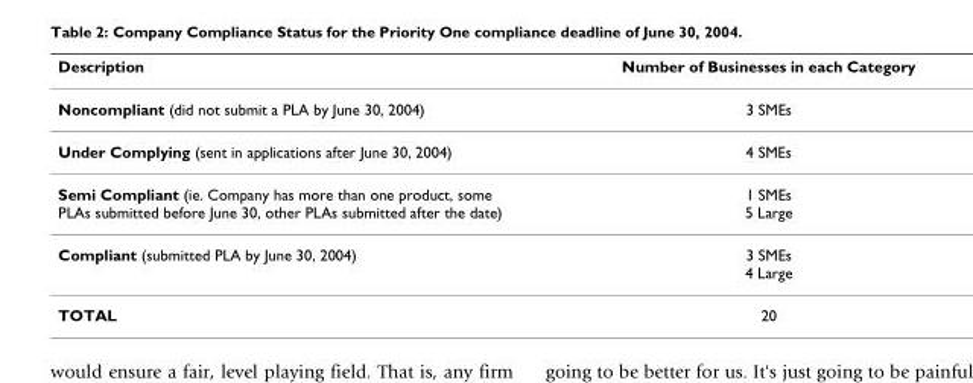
<table><thead><tr><td>Description</td><td>Number of Businesses in each Category</td></tr></thead><tbody><tr><td>Noncompliant (did not submit a PLA by June 30, 2004)</td><td>3 SMEs</td></tr><tr><td>Under Complying (sent in applications after June 30, 2004)</td><td>4 SMEs</td></tr><tr><td>Semi Compliant (ie. Company has more than one product, some PLAs submitted before June 30, other PLAs submitted after the date)</td><td>1 SMEs 5 Large</td></tr><tr><td>Compliant (submitted PLA by June 30, 2004)</td><td>3 SMEs 4 Large</td></tr><tr><td>TOTAL</td><td>20</td></tr></tbody></table>